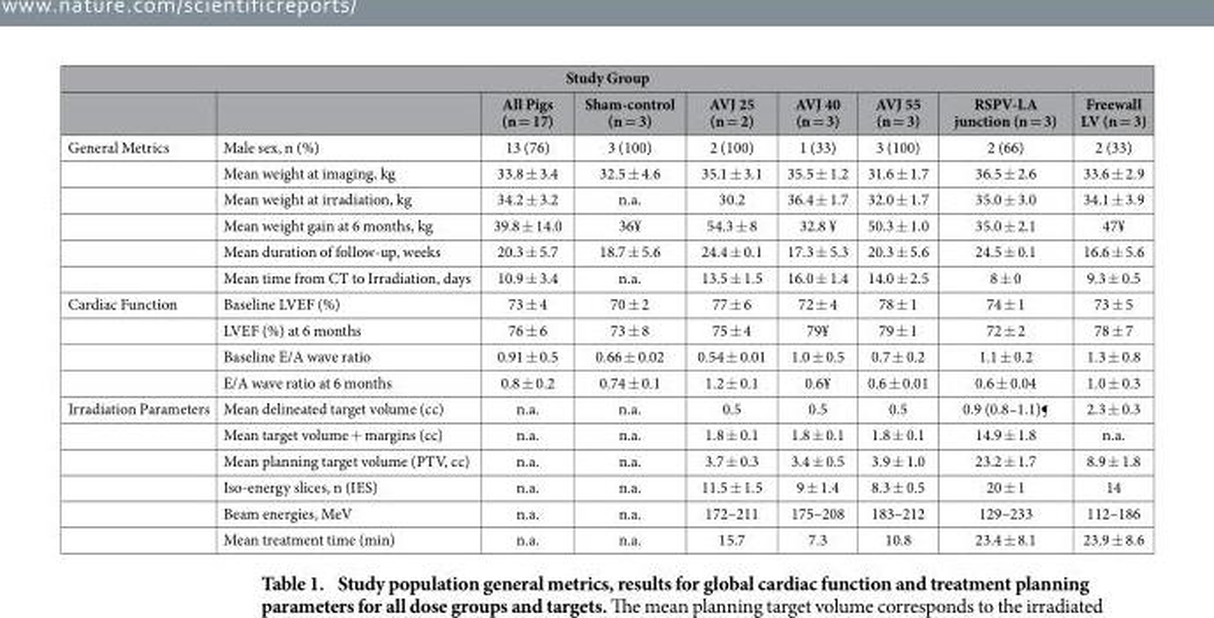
<table><thead><tr><td colspan="9">Study Group</td></tr><tr><td></td><td></td><td>All Pigs (n = 17)</td><td>Sham-control (n = 3)</td><td>AVJ 25 (n = 2)</td><td>AVJ 40 (n = 3)</td><td>AVJ 55 (n = 3)</td><td>RSPV-LA junction (n = 3)</td><td>Freewall LV (n = 3)</td></tr></thead><tbody><tr><td rowspan="6">General Metrics</td><td>Male sex, n (%)</td><td>13 (76)</td><td>3 (100)</td><td>2 (100)</td><td>1 (33)</td><td>3 (100)</td><td>2 (66)</td><td>2 (33)</td></tr><tr><td>Mean weight at imaging, kg</td><td>33.8 ± 3.4</td><td>32.5 ± 4.6</td><td>35.1 ± 3.1</td><td>35.5 ± 1.2</td><td>31.6 ± 1.7</td><td>36.5 ± 2.6</td><td>33.6 ± 2.9</td></tr><tr><td>Mean weight at irradiation, kg</td><td>34.2 ± 3.2</td><td>n.a.</td><td>30.2</td><td>36.4 ± 1.7</td><td>32.0 ± 1.7</td><td>35.0 ± 3.0</td><td>34.1 ± 3.9</td></tr><tr><td>Mean weight gain at 6 months, kg</td><td>39.8 ± 14.0</td><td>36¥</td><td>54.3 ± 8</td><td>32.8 ¥</td><td>50.3 ± 1.0</td><td>35.0 ± 2.1</td><td>47¥</td></tr><tr><td>Mean duration of follow-up, weeks</td><td>20.3 ± 5.7</td><td>18.7 ± 5.6</td><td>24.4 ± 0.1</td><td>17.3 ± 5.3</td><td>20.3 ± 5.6</td><td>24.5 ± 0.1</td><td>16.6 ± 5.6</td></tr><tr><td>Mean time from CT to Irradiation, days</td><td>10.9 ± 3.4</td><td>n.a.</td><td>13.5 ± 1.5</td><td>16.0 ± 1.4</td><td>14.0 ± 2.5</td><td>8 ± 0</td><td>9.3 ± 0.5</td></tr><tr><td rowspan="4">Cardiac Function</td><td>Baseline LVEF (%)</td><td>73 ± 4</td><td>70 ± 2</td><td>77 ± 6</td><td>72 ± 4</td><td>78 ± 1</td><td>74 ± 1</td><td>73 ± 5</td></tr><tr><td>LVEF (%) at 6 months</td><td>76 ± 6</td><td>73 ± 8</td><td>75 ± 4</td><td>79¥</td><td>79 ± 1</td><td>72 ± 2</td><td>78 ± 7</td></tr><tr><td>Baseline E/A wave ratio</td><td>0.91 ± 0.5</td><td>0.66 ± 0.02</td><td>0.54 ± 0.01</td><td>1.0 ± 0.5</td><td>0.7 ± 0.2</td><td>1.1 ± 0.2</td><td>1.3 ± 0.8</td></tr><tr><td>E/A wave ratio at 6 months</td><td>0.8 ± 0.2</td><td>0.74 ± 0.1</td><td>1.2 ± 0.1</td><td>0.6¥</td><td>0.6 ± 0.01</td><td>0.6 ± 0.04</td><td>1.0 ± 0.3</td></tr><tr><td rowspan="6">Irradiation Parameters</td><td>Mean delineated target volume (cc)</td><td>n.a.</td><td>n.a.</td><td>0.5</td><td>0.5</td><td>0.5</td><td>0.9 (0.8–1.1)¶</td><td>2.3 ± 0.3</td></tr><tr><td>Mean target volume + margins (cc)</td><td>n.a.</td><td>n.a.</td><td>1.8 ± 0.1</td><td>1.8 ± 0.1</td><td>1.8 ± 0.1</td><td>14.9 ± 1.8</td><td>n.a.</td></tr><tr><td>Mean planning target volume (PTV, cc)</td><td>n.a.</td><td>n.a.</td><td>3.7 ± 0.3</td><td>3.4 ± 0.5</td><td>3.9 ± 1.0</td><td>23.2 ± 1.7</td><td>8.9 ± 1.8</td></tr><tr><td>Iso-energy slices, n (IES)</td><td>n.a.</td><td>n.a.</td><td>11.5 ± 1.5</td><td>9 ± 1.4</td><td>8.3 ± 0.5</td><td>20 ± 1</td><td>14</td></tr><tr><td>Beam energies, MeV</td><td>n.a.</td><td>n.a.</td><td>172–211</td><td>175–208</td><td>183–212</td><td>129–233</td><td>112–186</td></tr><tr><td>Mean treatment time (min)</td><td>n.a.</td><td>n.a.</td><td>15.7</td><td>7.3</td><td>10.8</td><td>23.4 ± 8.1</td><td>23.9 ± 8.6</td></tr></tbody></table>